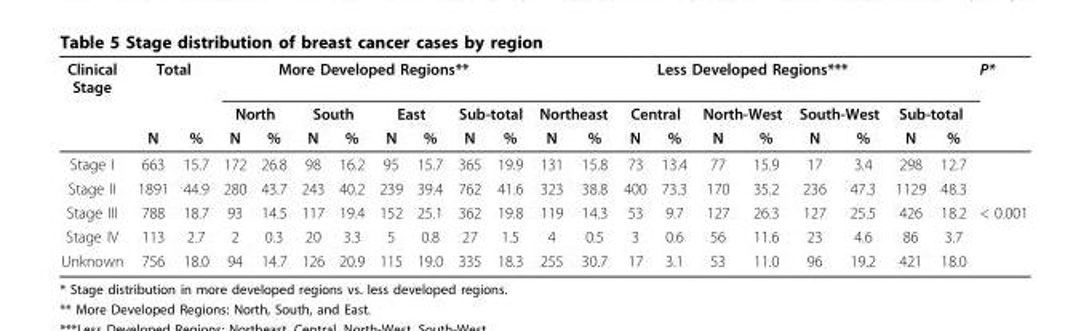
<table><thead><tr><td rowspan="3">Clinical Stage</td><td colspan="2">Total</td><td colspan="8">More Developed Regions**</td><td colspan="10">Less Developed Regions***</td><td rowspan="3">P*</td></tr><tr><td rowspan="2">N</td><td rowspan="2">%</td><td colspan="2">North</td><td colspan="2">South</td><td colspan="2">East</td><td colspan="2">Sub-total</td><td colspan="2">Northeast</td><td colspan="2">Central</td><td colspan="2">North-West</td><td colspan="2">South-West</td><td colspan="2">Sub-total</td></tr><tr><td>N</td><td>%</td><td>N</td><td>%</td><td>N</td><td>%</td><td>N</td><td>%</td><td>N</td><td>%</td><td>N</td><td>%</td><td>N</td><td>%</td><td>N</td><td>%</td><td>N</td><td>%</td></tr></thead><tbody><tr><td>Stage I</td><td>663</td><td>15.7</td><td>172</td><td>26.8</td><td>98</td><td>16.2</td><td>95</td><td>15.7</td><td>365</td><td>19.9</td><td>131</td><td>15.8</td><td>73</td><td>13.4</td><td>77</td><td>15.9</td><td>17</td><td>3.4</td><td>298</td><td>12.7</td><td></td></tr><tr><td>Stage II</td><td>1891</td><td>44.9</td><td>280</td><td>43.7</td><td>243</td><td>40.2</td><td>239</td><td>39.4</td><td>762</td><td>41.6</td><td>323</td><td>38.8</td><td>400</td><td>73.3</td><td>170</td><td>35.2</td><td>236</td><td>47.3</td><td>1129</td><td>48.3</td><td></td></tr><tr><td>Stage III</td><td>788</td><td>18.7</td><td>93</td><td>14.5</td><td>117</td><td>19.4</td><td>152</td><td>25.1</td><td>362</td><td>19.8</td><td>119</td><td>14.3</td><td>53</td><td>9.7</td><td>127</td><td>26.3</td><td>127</td><td>25.5</td><td>426</td><td>18.2</td><td>&lt; 0.001</td></tr><tr><td>Stage IV</td><td>113</td><td>2.7</td><td>2</td><td>0.3</td><td>20</td><td>3.3</td><td>5</td><td>0.8</td><td>27</td><td>1.5</td><td>4</td><td>0.5</td><td>3</td><td>0.6</td><td>56</td><td>11.6</td><td>23</td><td>4.6</td><td>86</td><td>3.7</td><td></td></tr><tr><td>Unknown</td><td>756</td><td>18.0</td><td>94</td><td>14.7</td><td>126</td><td>20.9</td><td>115</td><td>19.0</td><td>335</td><td>18.3</td><td>255</td><td>30.7</td><td>17</td><td>3.1</td><td>53</td><td>11.0</td><td>96</td><td>19.2</td><td>421</td><td>18.0</td><td></td></tr></tbody></table>